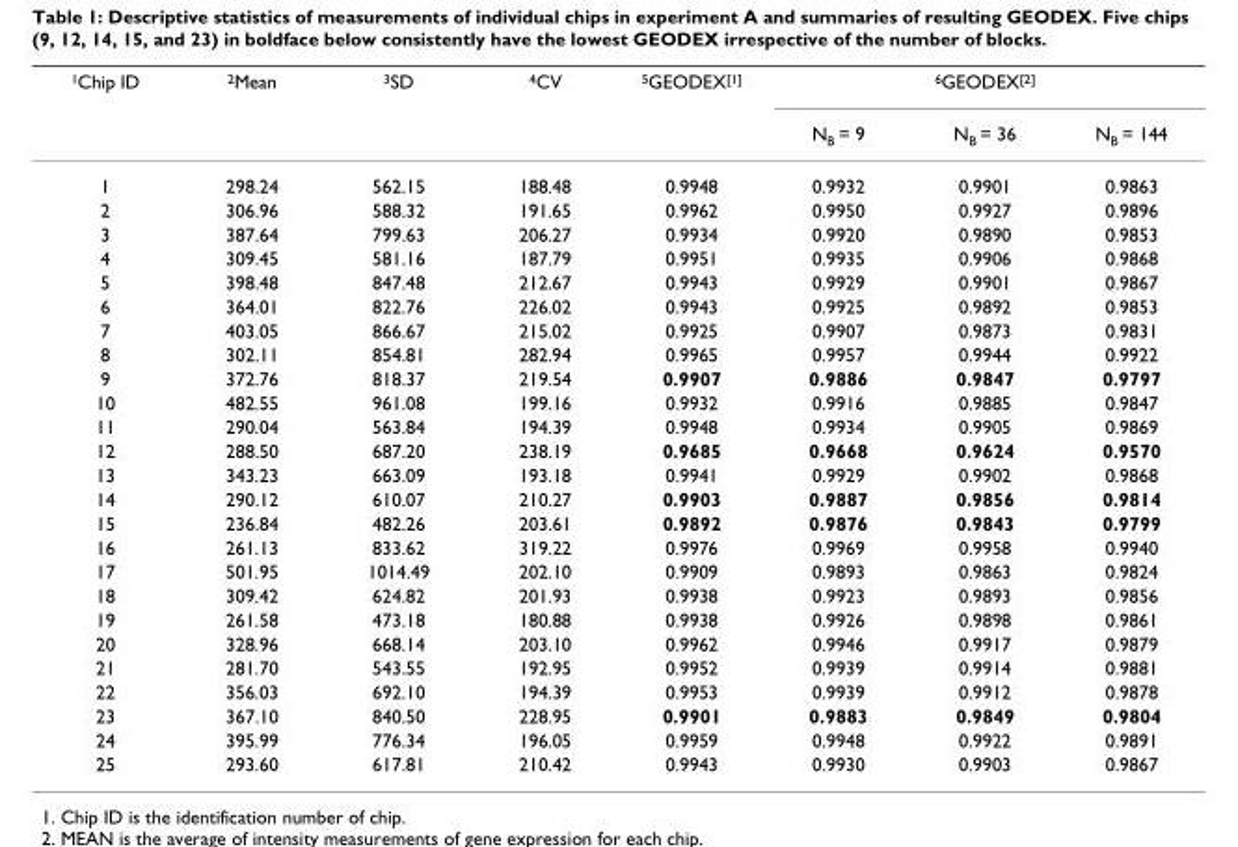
<table><thead><tr><td rowspan="2">1Chip ID</td><td rowspan="2">2Mean</td><td rowspan="2">3SD</td><td rowspan="2">4CV</td><td rowspan="2">5GEODEX[1]</td><td colspan="3">6GEODEX[2]</td></tr><tr><td>NB = 9</td><td>NB = 36</td><td>NB = 144</td></tr></thead><tbody><tr><td>1</td><td>298.24</td><td>562.15</td><td>188.48</td><td>0.9948</td><td>0.9932</td><td>0.9901</td><td>0.9863</td></tr><tr><td>2</td><td>306.96</td><td>588.32</td><td>191.65</td><td>0.9962</td><td>0.9950</td><td>0.9927</td><td>0.9896</td></tr><tr><td>3</td><td>387.64</td><td>799.63</td><td>206.27</td><td>0.9934</td><td>0.9920</td><td>0.9890</td><td>0.9853</td></tr><tr><td>4</td><td>309.45</td><td>581.16</td><td>187.79</td><td>0.9951</td><td>0.9935</td><td>0.9906</td><td>0.9868</td></tr><tr><td>5</td><td>398.48</td><td>847.48</td><td>212.67</td><td>0.9943</td><td>0.9929</td><td>0.9901</td><td>0.9867</td></tr><tr><td>6</td><td>364.01</td><td>822.76</td><td>226.02</td><td>0.9943</td><td>0.9925</td><td>0.9892</td><td>0.9853</td></tr><tr><td>7</td><td>403.05</td><td>866.67</td><td>215.02</td><td>0.9925</td><td>0.9907</td><td>0.9873</td><td>0.9831</td></tr><tr><td>8</td><td>302.11</td><td>854.81</td><td>282.94</td><td>0.9965</td><td>0.9957</td><td>0.9944</td><td>0.9922</td></tr><tr><td>9</td><td>372.76</td><td>818.37</td><td>219.54</td><td>0.9907</td><td>0.9886</td><td>0.9847</td><td>0.9797</td></tr><tr><td>10</td><td>482.55</td><td>961.08</td><td>199.16</td><td>0.9932</td><td>0.9916</td><td>0.9885</td><td>0.9847</td></tr><tr><td>11</td><td>290.04</td><td>563.84</td><td>194.39</td><td>0.9948</td><td>0.9934</td><td>0.9905</td><td>0.9869</td></tr><tr><td>12</td><td>288.50</td><td>687.20</td><td>238.19</td><td>0.9685</td><td>0.9668</td><td>0.9624</td><td>0.9570</td></tr><tr><td>13</td><td>343.23</td><td>663.09</td><td>193.18</td><td>0.9941</td><td>0.9929</td><td>0.9902</td><td>0.9868</td></tr><tr><td>14</td><td>290.12</td><td>610.07</td><td>210.27</td><td>0.9903</td><td>0.9887</td><td>0.9856</td><td>0.9814</td></tr><tr><td>15</td><td>236.84</td><td>482.26</td><td>203.61</td><td>0.9892</td><td>0.9876</td><td>0.9843</td><td>0.9799</td></tr><tr><td>16</td><td>261.13</td><td>833.62</td><td>319.22</td><td>0.9976</td><td>0.9969</td><td>0.9958</td><td>0.9940</td></tr><tr><td>17</td><td>501.95</td><td>1014.49</td><td>202.10</td><td>0.9909</td><td>0.9893</td><td>0.9863</td><td>0.9824</td></tr><tr><td>18</td><td>309.42</td><td>624.82</td><td>201.93</td><td>0.9938</td><td>0.9923</td><td>0.9893</td><td>0.9856</td></tr><tr><td>19</td><td>261.58</td><td>473.18</td><td>180.88</td><td>0.9938</td><td>0.9926</td><td>0.9898</td><td>0.9861</td></tr><tr><td>20</td><td>328.96</td><td>668.14</td><td>203.10</td><td>0.9962</td><td>0.9946</td><td>0.9917</td><td>0.9879</td></tr><tr><td>21</td><td>281.70</td><td>543.55</td><td>192.95</td><td>0.9952</td><td>0.9939</td><td>0.9914</td><td>0.9881</td></tr><tr><td>22</td><td>356.03</td><td>692.10</td><td>194.39</td><td>0.9953</td><td>0.9939</td><td>0.9912</td><td>0.9878</td></tr><tr><td>23</td><td>367.10</td><td>840.50</td><td>228.95</td><td>0.9901</td><td>0.9883</td><td>0.9849</td><td>0.9804</td></tr><tr><td>24</td><td>395.99</td><td>776.34</td><td>196.05</td><td>0.9959</td><td>0.9948</td><td>0.9922</td><td>0.9891</td></tr><tr><td>25</td><td>293.60</td><td>617.81</td><td>210.42</td><td>0.9943</td><td>0.9930</td><td>0.9903</td><td>0.9867</td></tr></tbody></table>